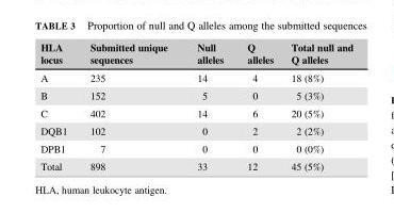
<table><thead><tr><td>HLA locus</td><td>Submitted unique sequences</td><td>Null alleles</td><td>Q alleles</td><td>Total null and Q alleles</td></tr></thead><tbody><tr><td>A</td><td>235</td><td>14</td><td>4</td><td>18 (8%)</td></tr><tr><td>B</td><td>152</td><td>5</td><td>0</td><td>5 (3%)</td></tr><tr><td>C</td><td>402</td><td>14</td><td>6</td><td>20 (5%)</td></tr><tr><td>DQB1</td><td>102</td><td>0</td><td>2</td><td>2 (2%)</td></tr><tr><td>DPB1</td><td>7</td><td>0</td><td>0</td><td>0 (0%)</td></tr><tr><td>Total</td><td>898</td><td>33</td><td>12</td><td>45 (5%)</td></tr></tbody></table>